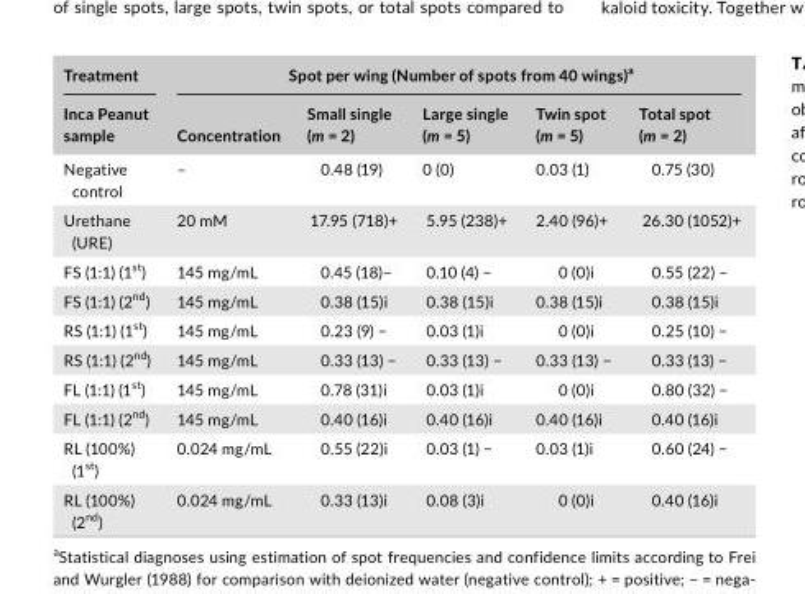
<table><thead><tr><td rowspan="2">Treatment Inca Peanut sample</td><td colspan="5">Spot per wing (Number of spots from 40 wings)<sup>a</sup></td></tr><tr><td>Concentration</td><td>Small single (m = 2)</td><td>Large single (m = 5)</td><td>Twin spot (m = 5)</td><td>Total spot (m = 2)</td></tr></thead><tbody><tr><td>Negative control</td><td>–</td><td>0.48 (19)</td><td>0 (0)</td><td>0.03 (1)</td><td>0.75 (30)</td></tr><tr><td>Urethane (URE)</td><td>20 mM</td><td>17.95 (718)+</td><td>5.95 (238)+</td><td>2.40 (96)+</td><td>26.30 (1052)+</td></tr><tr><td>FS (1:1) (1<sup>st</sup>)</td><td>145 mg/mL</td><td>0.45 (18)−</td><td>0.10 (4) −</td><td>0 (0)i</td><td>0.55 (22) −</td></tr><tr><td>FS (1:1) (2<sup>nd</sup>)</td><td>145 mg/mL</td><td>0.38 (15)i</td><td>0.38 (15)i</td><td>0.38 (15)i</td><td>0.38 (15)i</td></tr><tr><td>RS (1:1) (1<sup>st</sup>)</td><td>145 mg/mL</td><td>0.23 (9) −</td><td>0.03 (1)i</td><td>0 (0)i</td><td>0.25 (10) −</td></tr><tr><td>RS (1:1) (2<sup>nd</sup>)</td><td>145 mg/mL</td><td>0.33 (13) −</td><td>0.33 (13) −</td><td>0.33 (13) −</td><td>0.33 (13) −</td></tr><tr><td>FL (1:1) (1<sup>st</sup>)</td><td>145 mg/mL</td><td>0.78 (31)i</td><td>0.03 (1)i</td><td>0 (0)i</td><td>0.80 (32) −</td></tr><tr><td>FL (1:1) (2<sup>nd</sup>)</td><td>145 mg/mL</td><td>0.40 (16)i</td><td>0.40 (16)i</td><td>0.40 (16)i</td><td>0.40 (16)i</td></tr><tr><td>RL (100%) (1<sup>st</sup>)</td><td>0.024 mg/mL</td><td>0.55 (22)i</td><td>0.03 (1) −</td><td>0.03 (1)i</td><td>0.60 (24) −</td></tr><tr><td>RL (100%) (2<sup>nd</sup>)</td><td>0.024 mg/mL</td><td>0.33 (13)i</td><td>0.08 (3)i</td><td>0 (0)i</td><td>0.40 (16)i</td></tr></tbody></table>